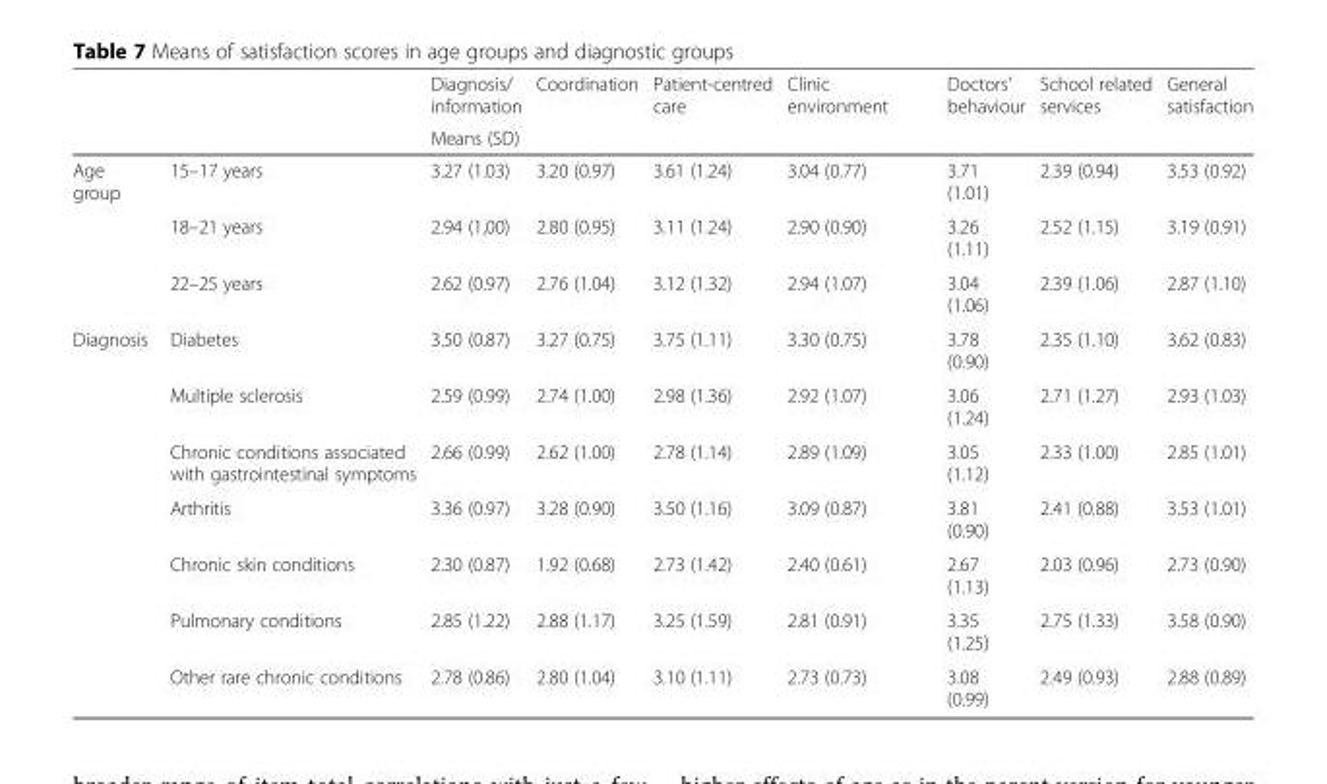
<table><thead><tr><td rowspan="2"></td><td rowspan="2"></td><td>Diagnosis/ information</td><td>Coordination</td><td>Patient-centred care</td><td>Clinic environment</td><td>Doctors’ behaviour</td><td>School related services</td><td>General satisfaction</td></tr><tr><td colspan="7">Means (SD)</td></tr></thead><tbody><tr><td rowspan="3">Age group</td><td>15–17 years</td><td>3.27 (1.03)</td><td>3.20 (0.97)</td><td>3.61 (1.24)</td><td>3.04 (0.77)</td><td>3.71 (1.01)</td><td>2.39 (0.94)</td><td>3.53 (0.92)</td></tr><tr><td>18–21 years</td><td>2.94 (1,00)</td><td>2.80 (0.95)</td><td>3.11 (1.24)</td><td>2.90 (0.90)</td><td>3.26 (1.11)</td><td>2.52 (1.15)</td><td>3.19 (0.91)</td></tr><tr><td>22–25 years</td><td>2.62 (0.97)</td><td>2.76 (1.04)</td><td>3.12 (1.32)</td><td>2.94 (1.07)</td><td>3.04 (1.06)</td><td>2.39 (1.06)</td><td>2.87 (1.10)</td></tr><tr><td rowspan="7">Diagnosis</td><td>Diabetes</td><td>3.50 (0.87)</td><td>3.27 (0.75)</td><td>3.75 (1.11)</td><td>3.30 (0.75)</td><td>3.78 (0.90)</td><td>2.35 (1.10)</td><td>3.62 (0.83)</td></tr><tr><td>Multiple sclerosis</td><td>2.59 (0.99)</td><td>2.74 (1.00)</td><td>2.98 (1.36)</td><td>2.92 (1.07)</td><td>3.06 (1.24)</td><td>2.71 (1.27)</td><td>2.93 (1.03)</td></tr><tr><td>Chronic conditions associated with gastrointestinal symptoms</td><td>2.66 (0.99)</td><td>2.62 (1.00)</td><td>2.78 (1.14)</td><td>2.89 (1.09)</td><td>3.05 (1.12)</td><td>2.33 (1.00)</td><td>2.85 (1.01)</td></tr><tr><td>Arthritis</td><td>3.36 (0.97)</td><td>3.28 (0.90)</td><td>3.50 (1.16)</td><td>3.09 (0.87)</td><td>3.81 (0.90)</td><td>2.41 (0.88)</td><td>3.53 (1.01)</td></tr><tr><td>Chronic skin conditions</td><td>2.30 (0.87)</td><td>1.92 (0.68)</td><td>2.73 (1.42)</td><td>2.40 (0.61)</td><td>2.67 (1.13)</td><td>2.03 (0.96)</td><td>2.73 (0.90)</td></tr><tr><td>Pulmonary conditions</td><td>2.85 (1.22)</td><td>2.88 (1.17)</td><td>3.25 (1.59)</td><td>2.81 (0.91)</td><td>3.35 (1.25)</td><td>2.75 (1.33)</td><td>3.58 (0.90)</td></tr><tr><td>Other rare chronic conditions</td><td>2.78 (0.86)</td><td>2.80 (1.04)</td><td>3.10 (1.11)</td><td>2.73 (0.73)</td><td>3.08 (0.99)</td><td>2.49 (0.93)</td><td>2.88 (0.89)</td></tr></tbody></table>